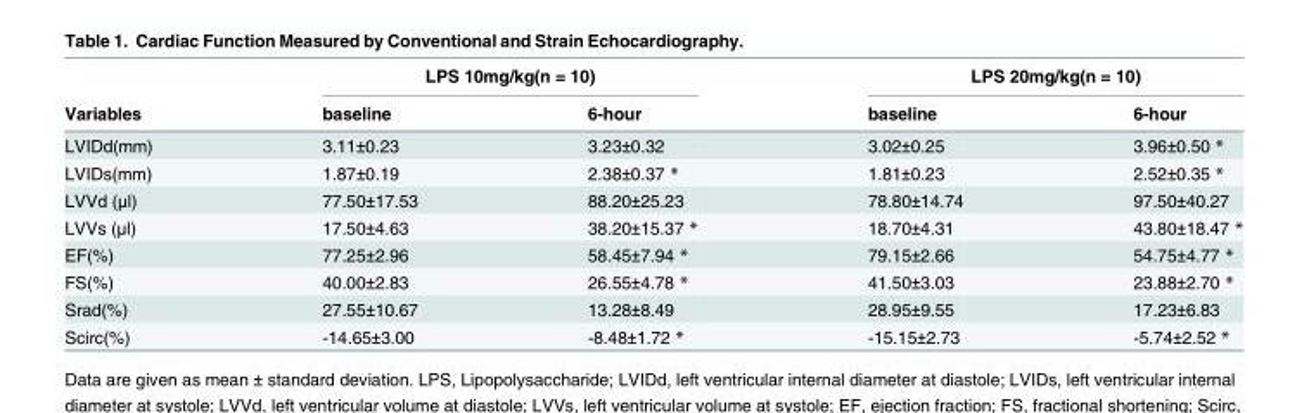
<table><thead><tr><td rowspan="2">Variables</td><td colspan="2">LPS 10mg/kg(n = 10)</td><td colspan="2">LPS 20mg/kg(n = 10)</td></tr><tr><td>baseline</td><td>6-hour</td><td>baseline</td><td>6-hour</td></tr></thead><tbody><tr><td>LVIDd(mm)</td><td>3.11±0.23</td><td>3.23±0.32</td><td>3.02±0.25</td><td>3.96±0.50 *</td></tr><tr><td>LVIDs(mm)</td><td>1.87±0.19</td><td>2.38±0.37 *</td><td>1.81±0.23</td><td>2.52±0.35 *</td></tr><tr><td>LVVd (μl)</td><td>77.50±17.53</td><td>88.20±25.23</td><td>78.80±14.74</td><td>97.50±40.27</td></tr><tr><td>LVVs (μl)</td><td>17.50±4.63</td><td>38.20±15.37 *</td><td>18.70±4.31</td><td>43.80±18.47 *</td></tr><tr><td>EF(%)</td><td>77.25±2.96</td><td>58.45±7.94 *</td><td>79.15±2.66</td><td>54.75±4.77 *</td></tr><tr><td>FS(%)</td><td>40.00±2.83</td><td>26.55±4.78 *</td><td>41.50±3.03</td><td>23.88±2.70 *</td></tr><tr><td>Srad(%)</td><td>27.55±10.67</td><td>13.28±8.49</td><td>28.95±9.55</td><td>17.23±6.83</td></tr><tr><td>Scirc(%)</td><td>-14.65±3.00</td><td>-8.48±1.72 *</td><td>-15.15±2.73</td><td>-5.74±2.52 *</td></tr></tbody></table>